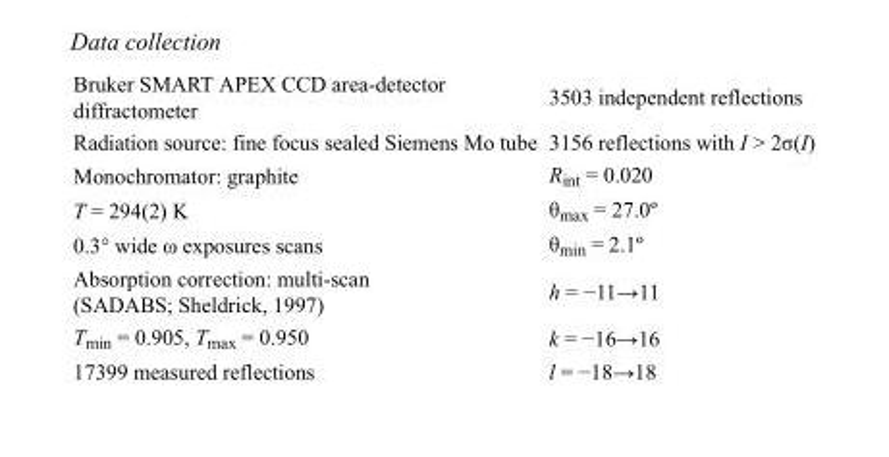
<table><tbody><tr><td>Bruker SMART APEX CCD area-detector diffractometer</td><td>3503 independent reflections</td></tr><tr><td>Radiation source: fine focus sealed Siemens Mo tube</td><td>3156 reflections with I &gt; 2σ(I)</td></tr><tr><td>Monochromator: graphite</td><td>R<sub>int</sub> = 0.020</td></tr><tr><td>T = 294(2) K</td><td>θ<sub>max</sub> = 27.0º</td></tr><tr><td>0.3° wide ω exposures scans</td><td>θ<sub>min</sub> = 2.1º</td></tr><tr><td>Absorption correction: multi-scan (SADABS; Sheldrick, 1997)</td><td>h = −11→11</td></tr><tr><td>T<sub>min</sub> = 0.905, T<sub>max</sub> = 0.950</td><td>k = −16→16</td></tr><tr><td>17399 measured reflections</td><td>l = −18→18</td></tr></tbody></table>